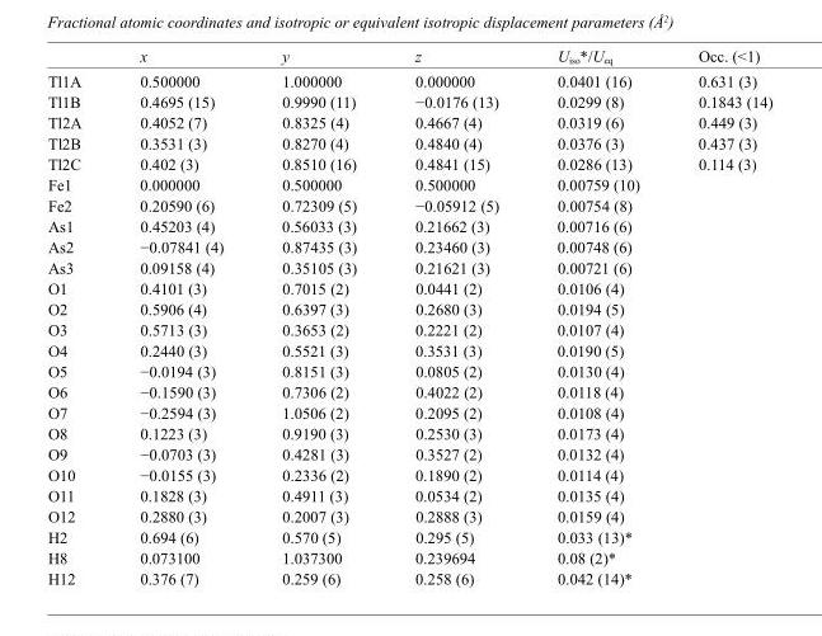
<table><thead><tr><td></td><td>x</td><td>y</td><td>z</td><td>U<sub>iso</sub>*/U<sub>eq</sub></td><td>Occ. (&lt;1)</td></tr></thead><tbody><tr><td>Tl1A</td><td>0.500000</td><td>1.000000</td><td>0.000000</td><td>0.0401 (16)</td><td>0.631 (3)</td></tr><tr><td>Tl1B</td><td>0.4695 (15)</td><td>0.9990 (11)</td><td>−0.0176 (13)</td><td>0.0299 (8)</td><td>0.1843 (14)</td></tr><tr><td>Tl2A</td><td>0.4052 (7)</td><td>0.8325 (4)</td><td>0.4667 (4)</td><td>0.0319 (6)</td><td>0.449 (3)</td></tr><tr><td>Tl2B</td><td>0.3531 (3)</td><td>0.8270 (4)</td><td>0.4840 (4)</td><td>0.0376 (3)</td><td>0.437 (3)</td></tr><tr><td>Tl2C</td><td>0.402 (3)</td><td>0.8510 (16)</td><td>0.4841 (15)</td><td>0.0286 (13)</td><td>0.114 (3)</td></tr><tr><td>Fe1</td><td>0.000000</td><td>0.500000</td><td>0.500000</td><td>0.00759 (10)</td><td></td></tr><tr><td>Fe2</td><td>0.20590 (6)</td><td>0.72309 (5)</td><td>−0.05912 (5)</td><td>0.00754 (8)</td><td></td></tr><tr><td>As1</td><td>0.45203 (4)</td><td>0.56033 (3)</td><td>0.21662 (3)</td><td>0.00716 (6)</td><td></td></tr><tr><td>As2</td><td>−0.07841 (4)</td><td>0.87435 (3)</td><td>0.23460 (3)</td><td>0.00748 (6)</td><td></td></tr><tr><td>As3</td><td>0.09158 (4)</td><td>0.35105 (3)</td><td>0.21621 (3)</td><td>0.00721 (6)</td><td></td></tr><tr><td>O1</td><td>0.4101 (3)</td><td>0.7015 (2)</td><td>0.0441 (2)</td><td>0.0106 (4)</td><td></td></tr><tr><td>O2</td><td>0.5906 (4)</td><td>0.6397 (3)</td><td>0.2680 (3)</td><td>0.0194 (5)</td><td></td></tr><tr><td>O3</td><td>0.5713 (3)</td><td>0.3653 (2)</td><td>0.2221 (2)</td><td>0.0107 (4)</td><td></td></tr><tr><td>O4</td><td>0.2440 (3)</td><td>0.5521 (3)</td><td>0.3531 (3)</td><td>0.0190 (5)</td><td></td></tr><tr><td>O5</td><td>−0.0194 (3)</td><td>0.8151 (3)</td><td>0.0805 (2)</td><td>0.0130 (4)</td><td></td></tr><tr><td>O6</td><td>−0.1590 (3)</td><td>0.7306 (2)</td><td>0.4022 (2)</td><td>0.0118 (4)</td><td></td></tr><tr><td>O7</td><td>−0.2594 (3)</td><td>1.0506 (2)</td><td>0.2095 (2)</td><td>0.0108 (4)</td><td></td></tr><tr><td>O8</td><td>0.1223 (3)</td><td>0.9190 (3)</td><td>0.2530 (3)</td><td>0.0173 (4)</td><td></td></tr><tr><td>O9</td><td>−0.0703 (3)</td><td>0.4281 (3)</td><td>0.3527 (2)</td><td>0.0132 (4)</td><td></td></tr><tr><td>O10</td><td>−0.0155 (3)</td><td>0.2336 (2)</td><td>0.1890 (2)</td><td>0.0114 (4)</td><td></td></tr><tr><td>O11</td><td>0.1828 (3)</td><td>0.4911 (3)</td><td>0.0534 (2)</td><td>0.0135 (4)</td><td></td></tr><tr><td>O12</td><td>0.2880 (3)</td><td>0.2007 (3)</td><td>0.2888 (3)</td><td>0.0159 (4)</td><td></td></tr><tr><td>H2</td><td>0.694 (6)</td><td>0.570 (5)</td><td>0.295 (5)</td><td>0.033 (13)*</td><td></td></tr><tr><td>H8</td><td>0.073100</td><td>1.037300</td><td>0.239694</td><td>0.08 (2)*</td><td></td></tr><tr><td>H12</td><td>0.376 (7)</td><td>0.259 (6)</td><td>0.258 (6)</td><td>0.042 (14)*</td><td></td></tr></tbody></table>